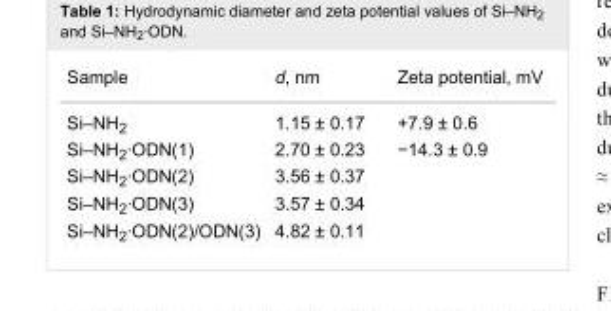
<table><tbody><tr><td>Sample</td><td>d, nm</td><td>Zeta potential, mV</td></tr><tr><td>Si–NH<sub>2</sub></td><td>1.15 ± 0.17</td><td>+7.9 ± 0.6</td></tr><tr><td>Si–NH<sub>2</sub>·ODN(1)</td><td>2.70 ± 0.23</td><td>−14.3 ± 0.9</td></tr><tr><td>Si–NH<sub>2</sub>·ODN(2)</td><td>3.56 ± 0.37</td><td></td></tr><tr><td>Si–NH<sub>2</sub>·ODN(3)</td><td>3.57 ± 0.34</td><td></td></tr><tr><td>Si–NH<sub>2</sub>·ODN(2)/ODN(3)</td><td>4.82 ± 0.11</td><td></td></tr></tbody></table>